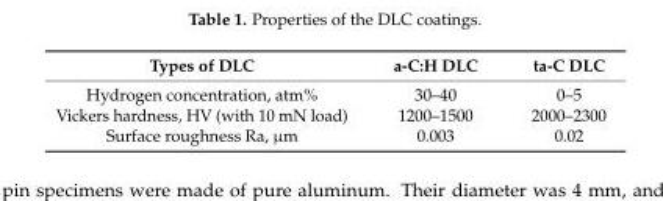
<table><thead><tr><td>Types of DLC</td><td>a-C:H DLC</td><td>ta-C DLC</td></tr></thead><tbody><tr><td>Hydrogen concentration, atm%</td><td>30–40</td><td>0–5</td></tr><tr><td>Vickers hardness, HV (with 10 mN load)</td><td>1200–1500</td><td>2000–2300</td></tr><tr><td>Surface roughness Ra, µm</td><td>0.003</td><td>0.02</td></tr></tbody></table>